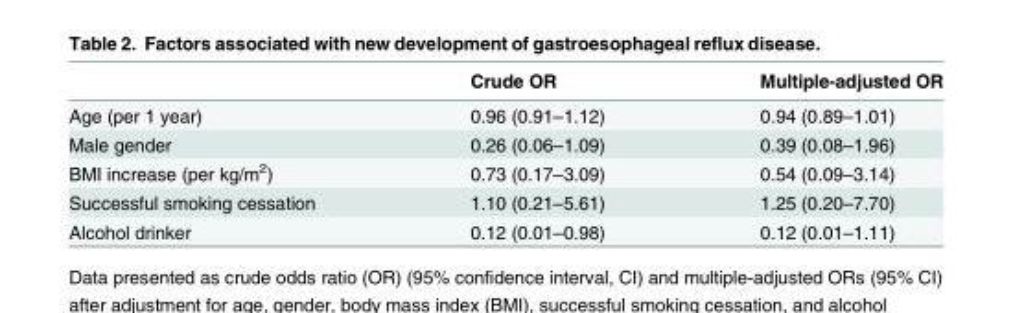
<table><thead><tr><td></td><td>Crude OR</td><td>Multiple-adjusted OR</td></tr></thead><tbody><tr><td>Age (per 1 year)</td><td>0.96 (0.91–1.12)</td><td>0.94 (0.89–1.01)</td></tr><tr><td>Male gender</td><td>0.26 (0.06–1.09)</td><td>0.39 (0.08–1.96)</td></tr><tr><td>BMI increase (per kg/m<sup>2</sup>)</td><td>0.73 (0.17–3.09)</td><td>0.54 (0.09–3.14)</td></tr><tr><td>Successful smoking cessation</td><td>1.10 (0.21–5.61)</td><td>1.25 (0.20–7.70)</td></tr><tr><td>Alcohol drinker</td><td>0.12 (0.01–0.98)</td><td>0.12 (0.01–1.11)</td></tr></tbody></table>